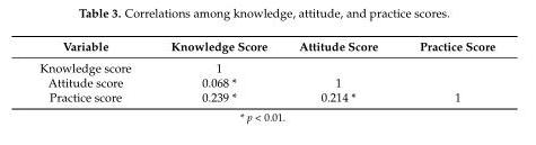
<table><thead><tr><td>Variable</td><td>Knowledge Score</td><td>Attitude Score</td><td>Practice Score</td></tr></thead><tbody><tr><td>Knowledge score</td><td>1</td><td></td><td></td></tr><tr><td>Attitude score</td><td>0.068 *</td><td>1</td><td></td></tr><tr><td>Practice score</td><td>0.239 *</td><td>0.214 *</td><td>1</td></tr></tbody></table>